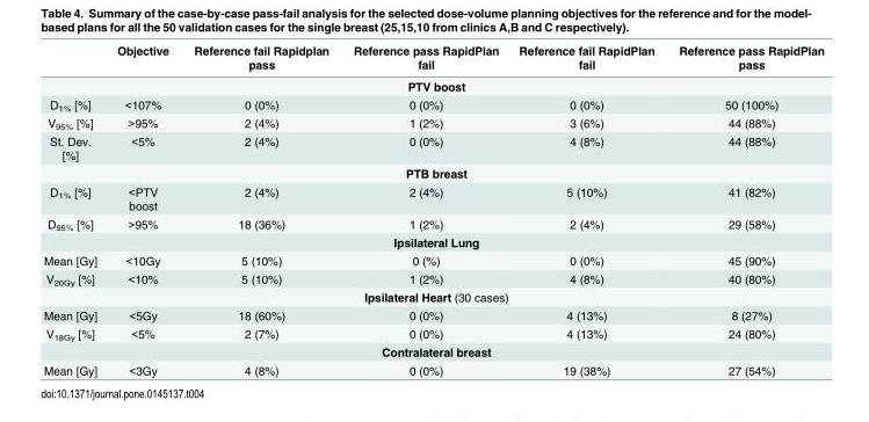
<table><thead><tr><td></td><td>Objective</td><td>Reference fail Rapidplan pass</td><td>Reference pass RapidPlan fail</td><td>Reference fail RapidPlan fail</td><td>Reference pass RapidPlan pass</td></tr></thead><tbody><tr><td colspan="6">PTV boost</td></tr><tr><td>D<sub>1%</sub> [%]</td><td>&lt;107%</td><td>0 (0%)</td><td>0 (0%)</td><td>0 (0%)</td><td>50 (100%)</td></tr><tr><td>V<sub>95%</sub> [%]</td><td>&gt;95%</td><td>2 (4%)</td><td>1 (2%)</td><td>3 (6%)</td><td>44 (88%)</td></tr><tr><td>St. Dev. [%]</td><td>&lt;5%</td><td>2 (4%)</td><td>0 (0%)</td><td>4 (8%)</td><td>44 (88%)</td></tr><tr><td colspan="6">PTB breast</td></tr><tr><td>D<sub>1%</sub> [%]</td><td>&lt;PTV boost</td><td>2 (4%)</td><td>2 (4%)</td><td>5 (10%)</td><td>41 (82%)</td></tr><tr><td>D<sub>95%</sub> [%]</td><td>&gt;95%</td><td>18 (36%)</td><td>1 (2%)</td><td>2 (4%)</td><td>29 (58%)</td></tr><tr><td colspan="6">Ipsilateral Lung</td></tr><tr><td>Mean [Gy]</td><td>&lt;10Gy</td><td>5 (10%)</td><td>0 (%)</td><td>0 (0%)</td><td>45 (90%)</td></tr><tr><td>V<sub>20Gy</sub> [%]</td><td>&lt;10%</td><td>5 (10%)</td><td>1 (2%)</td><td>4 (8%)</td><td>40 (80%)</td></tr><tr><td colspan="6">Ipsilateral Heart (30 cases)</td></tr><tr><td>Mean [Gy]</td><td>&lt;5Gy</td><td>18 (60%)</td><td>0 (0%)</td><td>4 (13%)</td><td>8 (27%)</td></tr><tr><td>V<sub>18Gy</sub> [%]</td><td>&lt;5%</td><td>2 (7%)</td><td>0 (0%)</td><td>4 (13%)</td><td>24 (80%)</td></tr><tr><td colspan="6">Contralateral breast</td></tr><tr><td>Mean [Gy]</td><td>&lt;3Gy</td><td>4 (8%)</td><td>0 (0%)</td><td>19 (38%)</td><td>27 (54%)</td></tr></tbody></table>